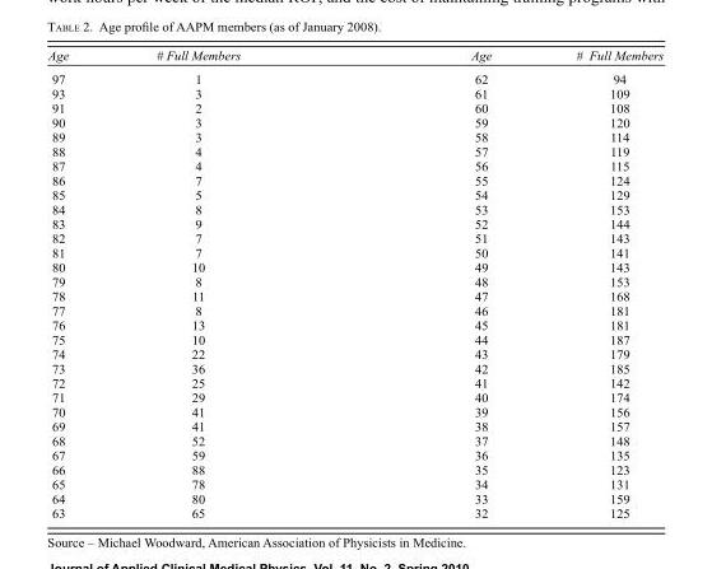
<table><thead><tr><td>Age</td><td># Full Members</td><td>Age</td><td># Full Members</td></tr></thead><tbody><tr><td>97</td><td>1</td><td>62</td><td>94</td></tr><tr><td>93</td><td>3</td><td>61</td><td>109</td></tr><tr><td>91</td><td>2</td><td>60</td><td>108</td></tr><tr><td>90</td><td>3</td><td>59</td><td>120</td></tr><tr><td>89</td><td>3</td><td>58</td><td>114</td></tr><tr><td>88</td><td>4</td><td>57</td><td>119</td></tr><tr><td>87</td><td>4</td><td>56</td><td>115</td></tr><tr><td>86</td><td>7</td><td>55</td><td>124</td></tr><tr><td>85</td><td>5</td><td>54</td><td>129</td></tr><tr><td>84</td><td>8</td><td>53</td><td>153</td></tr><tr><td>83</td><td>9</td><td>52</td><td>144</td></tr><tr><td>82</td><td>7</td><td>51</td><td>143</td></tr><tr><td>81</td><td>7</td><td>50</td><td>141</td></tr><tr><td>80</td><td>10</td><td>49</td><td>143</td></tr><tr><td>79</td><td>8</td><td>48</td><td>153</td></tr><tr><td>78</td><td>11</td><td>47</td><td>168</td></tr><tr><td>77</td><td>8</td><td>46</td><td>181</td></tr><tr><td>76</td><td>13</td><td>45</td><td>181</td></tr><tr><td>75</td><td>10</td><td>44</td><td>187</td></tr><tr><td>74</td><td>22</td><td>43</td><td>179</td></tr><tr><td>73</td><td>36</td><td>42</td><td>185</td></tr><tr><td>72</td><td>25</td><td>41</td><td>142</td></tr><tr><td>71</td><td>29</td><td>40</td><td>174</td></tr><tr><td>70</td><td>41</td><td>39</td><td>156</td></tr><tr><td>69</td><td>41</td><td>38</td><td>157</td></tr><tr><td>68</td><td>52</td><td>37</td><td>148</td></tr><tr><td>67</td><td>59</td><td>36</td><td>135</td></tr><tr><td>66</td><td>88</td><td>35</td><td>123</td></tr><tr><td>65</td><td>78</td><td>34</td><td>131</td></tr><tr><td>64</td><td>80</td><td>33</td><td>159</td></tr><tr><td>63</td><td>65</td><td>32</td><td>125</td></tr></tbody></table>